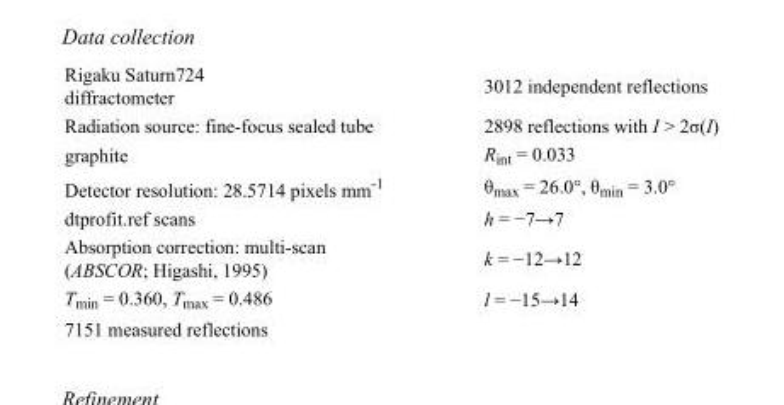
<table><tbody><tr><td>Rigaku Saturn724 diffractometer</td><td>3012 independent reflections</td></tr><tr><td>Radiation source: fine-focus sealed tube</td><td>2898 reflections with I &gt; 2σ(I)</td></tr><tr><td>graphite</td><td>R<sub>int</sub> = 0.033</td></tr><tr><td>Detector resolution: 28.5714 pixels mm<sup>-1</sup></td><td>θ<sub>max</sub> = 26.0°, θ<sub>min</sub> = 3.0°</td></tr><tr><td>dtprofit.ref scans</td><td>h = −7→7</td></tr><tr><td>Absorption correction: multi-scan (ABSCOR; Higashi, 1995)</td><td>k = −12→12</td></tr><tr><td>T<sub>min</sub> = 0.360, T<sub>max</sub> = 0.486</td><td>l = −15→14</td></tr><tr><td>7151 measured reflections</td><td></td></tr></tbody></table>